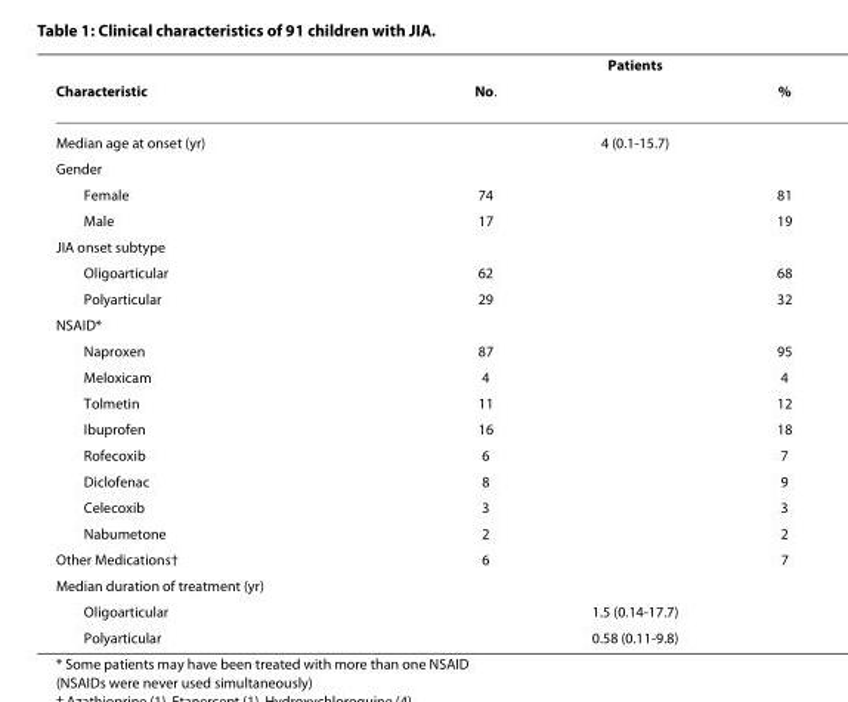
<table><thead><tr><td rowspan="2">Characteristic</td><td colspan="2">Patients</td></tr><tr><td>No.</td><td>%</td></tr></thead><tbody><tr><td>Median age at onset (yr)</td><td colspan="2">4 (0.1-15.7)</td></tr><tr><td colspan="3">Gender</td></tr><tr><td>Female</td><td>74</td><td>81</td></tr><tr><td>Male</td><td>17</td><td>19</td></tr><tr><td colspan="3">JIA onset subtype</td></tr><tr><td>Oligoarticular</td><td>62</td><td>68</td></tr><tr><td>Polyarticular</td><td>29</td><td>32</td></tr><tr><td colspan="3">NSAID*</td></tr><tr><td>Naproxen</td><td>87</td><td>95</td></tr><tr><td>Meloxicam</td><td>4</td><td>4</td></tr><tr><td>Tolmetin</td><td>11</td><td>12</td></tr><tr><td>Ibuprofen</td><td>16</td><td>18</td></tr><tr><td>Rofecoxib</td><td>6</td><td>7</td></tr><tr><td>Diclofenac</td><td>8</td><td>9</td></tr><tr><td>Celecoxib</td><td>3</td><td>3</td></tr><tr><td>Nabumetone</td><td>2</td><td>2</td></tr><tr><td>Other Medications†</td><td>6</td><td>7</td></tr><tr><td colspan="3">Median duration of treatment (yr)</td></tr><tr><td>Oligoarticular</td><td colspan="2">1.5 (0.14-17.7)</td></tr><tr><td>Polyarticular</td><td colspan="2">0.58 (0.11-9.8)</td></tr></tbody></table>